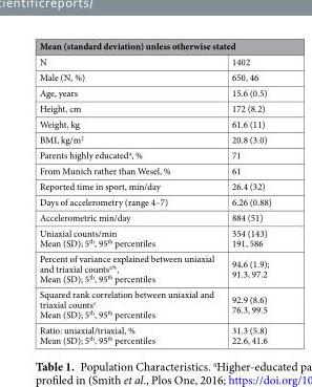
<table><thead><tr><td colspan="2">Mean (standard deviation) unless otherwise stated</td></tr><tr><td>N</td><td>1402</td></tr></thead><tbody><tr><td>Male (N, %)</td><td>650, 46</td></tr><tr><td>Age, years</td><td>15.6 (0.5)</td></tr><tr><td>Height, cm</td><td>172 (8.2)</td></tr><tr><td>Weight, kg</td><td>61.6 (11)</td></tr><tr><td>BMI, kg/m<sup>2</sup></td><td>20.8 (3.0)</td></tr><tr><td>Parents highly educated<sup>a</sup>, %</td><td>71</td></tr><tr><td>From Munich rather than Wesel, %</td><td>61</td></tr><tr><td>Reported time in sport, min/day</td><td>26.4 (32)</td></tr><tr><td>Days of accelerometry (range 4–7)</td><td>6.26 (0.88)</td></tr><tr><td>Accelerometric min/day</td><td>884 (51)</td></tr><tr><td>Uniaxial counts/min Mean (SD); 5<sup>th</sup>, 95<sup>th</sup> percentiles</td><td>354 (143) 191, 586</td></tr><tr><td>Percent of variance explained between uniaxial and triaxial counts<sup>a%</sup>, Mean (SD); 5<sup>th</sup>, 95<sup>th</sup> percentiles</td><td>94.6 (1.9); 91.3, 97.2</td></tr><tr><td>Squared rank correlation between uniaxial and triaxial counts<sup>c</sup> Mean (SD); 5<sup>th</sup>, 95<sup>th</sup> percentiles</td><td>92.9 (8.6) 76.3, 99.5</td></tr><tr><td>Ratio: uniaxial/triaxial, % Mean (SD); 5<sup>th</sup>, 95<sup>th</sup> percentiles</td><td>31.3 (5.8) 22.6, 41.6</td></tr></tbody></table>